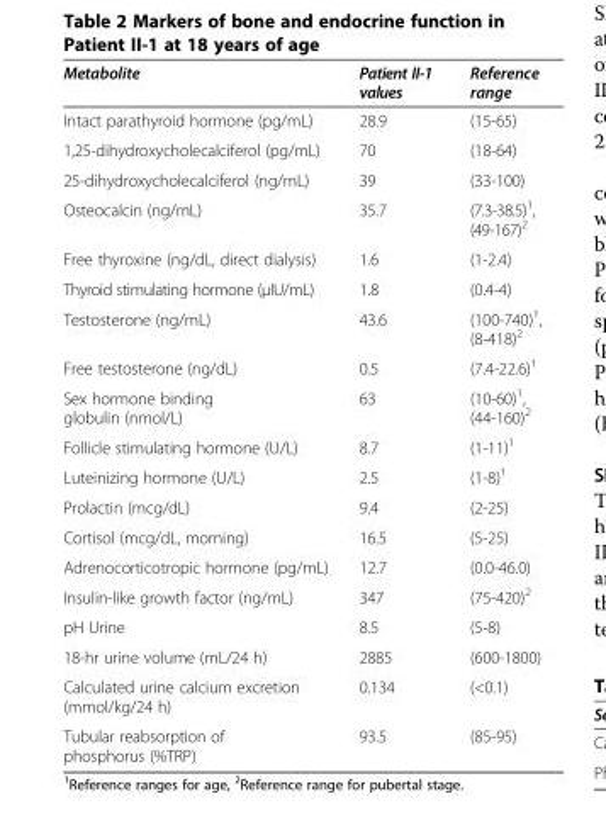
<table><thead><tr><td>Metabolite</td><td>Patient II-1 values</td><td>Reference range</td></tr></thead><tbody><tr><td>Intact parathyroid hormone (pg/mL)</td><td>28.9</td><td>(15-65)</td></tr><tr><td>1,25-dihydroxycholecalciferol (pg/mL)</td><td>70</td><td>(18-64)</td></tr><tr><td>25-dihydroxycholecalciferol (ng/mL)</td><td>39</td><td>(33-100)</td></tr><tr><td>Osteocalcin (ng/mL)</td><td>35.7</td><td>(7.3-38.5)<sup>1</sup>, (49-167)<sup>2</sup></td></tr><tr><td>Free thyroxine (ng/dL, direct dialysis)</td><td>1.6</td><td>(1-2.4)</td></tr><tr><td>Thyroid stimulating hormone (μIU/mL)</td><td>1.8</td><td>(0.4-4)</td></tr><tr><td>Testosterone (ng/mL)</td><td>43.6</td><td>(100-740)<sup>1</sup>, (8-418)<sup>2</sup></td></tr><tr><td>Free testosterone (ng/dL)</td><td>0.5</td><td>(7.4-22.6)<sup>1</sup></td></tr><tr><td>Sex hormone binding globulin (nmol/L)</td><td>63</td><td>(10-60)<sup>1</sup>, (44-160)<sup>2</sup></td></tr><tr><td>Follicle stimulating hormone (U/L)</td><td>8.7</td><td>(1-11)<sup>1</sup></td></tr><tr><td>Luteinizing hormone (U/L)</td><td>2.5</td><td>(1-8)<sup>1</sup></td></tr><tr><td>Prolactin (mcg/dL)</td><td>9.4</td><td>(2-25)</td></tr><tr><td>Cortisol (mcg/dL, morning)</td><td>16.5</td><td>(5-25)</td></tr><tr><td>Adrenocorticotropic hormone (pg/mL)</td><td>12.7</td><td>(0.0-46.0)</td></tr><tr><td>Insulin-like growth factor (ng/mL)</td><td>347</td><td>(75-420)<sup>2</sup></td></tr><tr><td>pH Urine</td><td>8.5</td><td>(5-8)</td></tr><tr><td>18-hr urine volume (mL/24 h)</td><td>2885</td><td>(600-1800)</td></tr><tr><td>Calculated urine calcium excretion (mmol/kg/24 h)</td><td>0.134</td><td>(&lt;0.1)</td></tr><tr><td>Tubular reabsorption of phosphorus (%TRP)</td><td>93.5</td><td>(85-95)</td></tr></tbody></table>